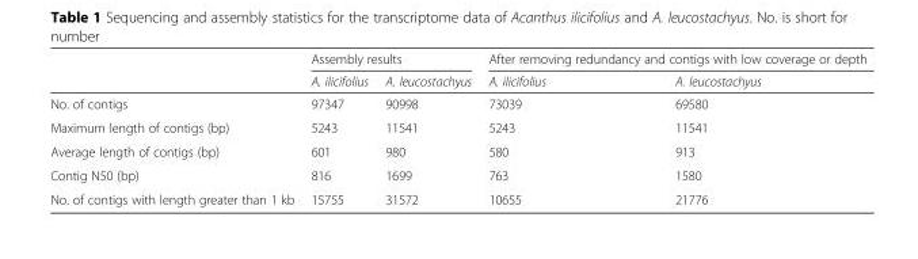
<table><thead><tr><td rowspan="2"></td><td colspan="2">Assembly results</td><td colspan="2">After removing redundancy and contigs with low coverage or depth</td></tr><tr><td>A. ilicifolius</td><td>A. leucostachyus</td><td>A. ilicifolius</td><td>A. leucostachyus</td></tr></thead><tbody><tr><td>No. of contigs</td><td>97347</td><td>90998</td><td>73039</td><td>69580</td></tr><tr><td>Maximum length of contigs (bp)</td><td>5243</td><td>11541</td><td>5243</td><td>11541</td></tr><tr><td>Average length of contigs (bp)</td><td>601</td><td>980</td><td>580</td><td>913</td></tr><tr><td>Contig N50 (bp)</td><td>816</td><td>1699</td><td>763</td><td>1580</td></tr><tr><td>No. of contigs with length greater than 1 kb</td><td>15755</td><td>31572</td><td>10655</td><td>21776</td></tr></tbody></table>